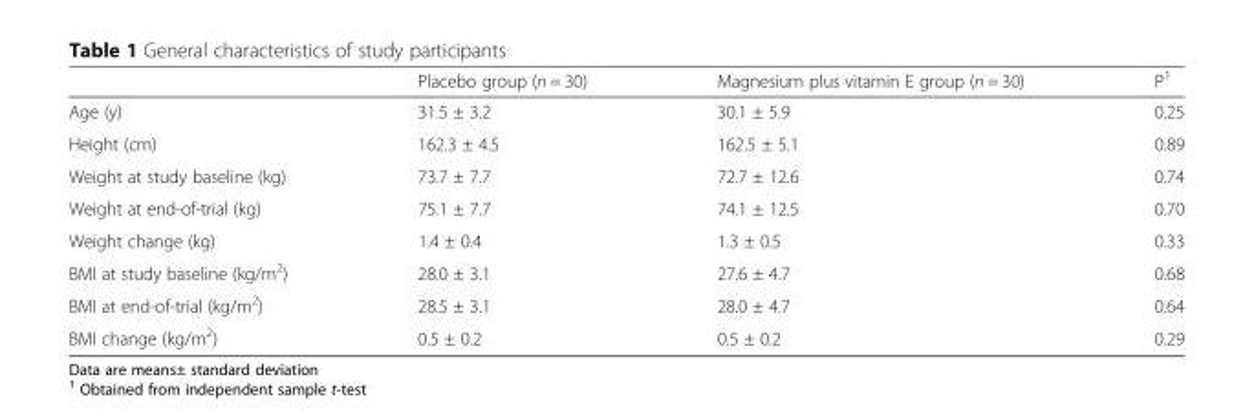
<table><thead><tr><td></td><td>Placebo group (n = 30)</td><td>Magnesium plus vitamin E group (n = 30)</td><td>P<sup>1</sup></td></tr></thead><tbody><tr><td>Age (y)</td><td>31.5 ± 3.2</td><td>30.1 ± 5.9</td><td>0.25</td></tr><tr><td>Height (cm)</td><td>162.3 ± 4.5</td><td>162.5 ± 5.1</td><td>0.89</td></tr><tr><td>Weight at study baseline (kg)</td><td>73.7 ± 7.7</td><td>72.7 ± 12.6</td><td>0.74</td></tr><tr><td>Weight at end-of-trial (kg)</td><td>75.1 ± 7.7</td><td>74.1 ± 12.5</td><td>0.70</td></tr><tr><td>Weight change (kg)</td><td>1.4 ± 0.4</td><td>1.3 ± 0.5</td><td>0.33</td></tr><tr><td>BMI at study baseline (kg/m<sup>2</sup>)</td><td>28.0 ± 3.1</td><td>27.6 ± 4.7</td><td>0.68</td></tr><tr><td>BMI at end-of-trial (kg/m<sup>2</sup>)</td><td>28.5 ± 3.1</td><td>28.0 ± 4.7</td><td>0.64</td></tr><tr><td>BMI change (kg/m<sup>2</sup>)</td><td>0.5 ± 0.2</td><td>0.5 ± 0.2</td><td>0.29</td></tr></tbody></table>